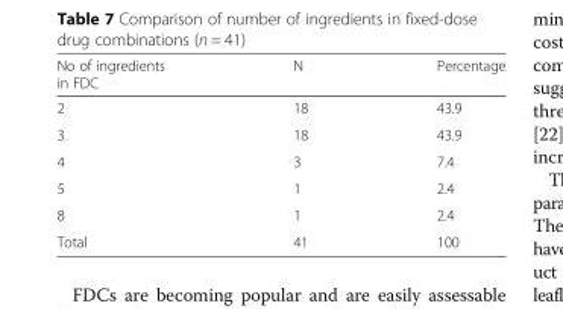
<table><thead><tr><td>No of ingredients in FDC</td><td>N</td><td>Percentage</td></tr></thead><tbody><tr><td>2</td><td>18</td><td>43.9</td></tr><tr><td>3</td><td>18</td><td>43.9</td></tr><tr><td>4</td><td>3</td><td>7.4</td></tr><tr><td>5</td><td>1</td><td>2.4</td></tr><tr><td>8</td><td>1</td><td>2.4</td></tr><tr><td>Total</td><td>41</td><td>100</td></tr></tbody></table>